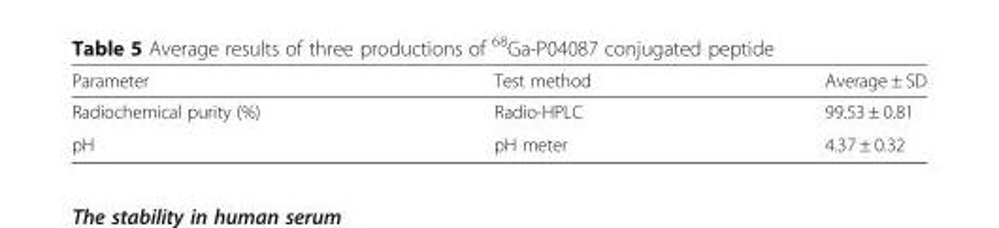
<table><thead><tr><td>Parameter</td><td>Test method</td><td>Average ± SD</td></tr></thead><tbody><tr><td>Radiochemical purity (%)</td><td>Radio-HPLC</td><td>99.53 ± 0.81</td></tr><tr><td>pH</td><td>pH meter</td><td>4.37 ± 0.32</td></tr></tbody></table>